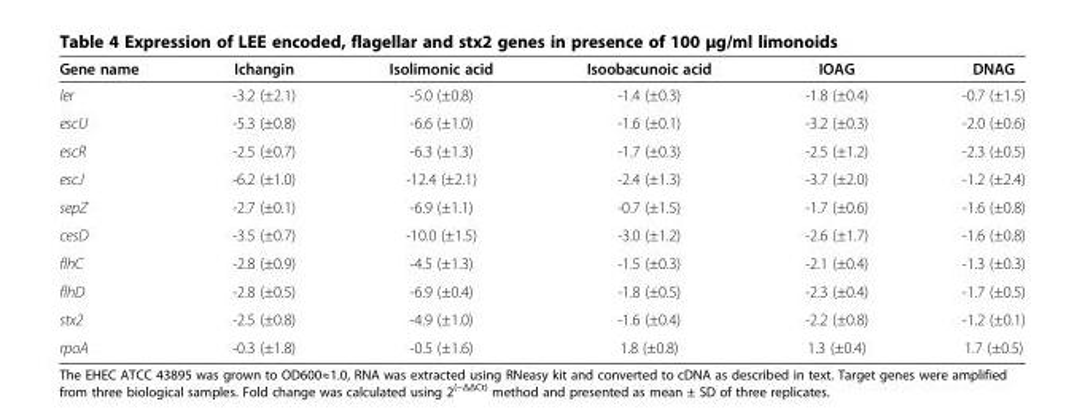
<table><thead><tr><td>Gene name</td><td>Ichangin</td><td>Isolimonic acid</td><td>Isoobacunoic acid</td><td>IOAG</td><td>DNAG</td></tr></thead><tbody><tr><td>ler</td><td>-3.2 (±2.1)</td><td>-5.0 (±0.8)</td><td>-1.4 (±0.3)</td><td>-1.8 (±0.4)</td><td>-0.7 (±1.5)</td></tr><tr><td>escU</td><td>-5.3 (±0.8)</td><td>-6.6 (±1.0)</td><td>-1.6 (±0.1)</td><td>-3.2 (±0.3)</td><td>-2.0 (±0.6)</td></tr><tr><td>escR</td><td>-2.5 (±0.7)</td><td>-6.3 (±1.3)</td><td>-1.7 (±0.3)</td><td>-2.5 (±1.2)</td><td>-2.3 (±0.5)</td></tr><tr><td>escJ</td><td>-6.2 (±1.0)</td><td>-12.4 (±2.1)</td><td>-2.4 (±1.3)</td><td>-3.7 (±2.0)</td><td>-1.2 (±2.4)</td></tr><tr><td>sepZ</td><td>-2.7 (±0.1)</td><td>-6.9 (±1.1)</td><td>-0.7 (±1.5)</td><td>-1.7 (±0.6)</td><td>-1.6 (±0.8)</td></tr><tr><td>cesD</td><td>-3.5 (±0.7)</td><td>-10.0 (±1.5)</td><td>-3.0 (±1.2)</td><td>-2.6 (±1.7)</td><td>-1.6 (±0.8)</td></tr><tr><td>flhC</td><td>-2.8 (±0.9)</td><td>-4.5 (±1.3)</td><td>-1.5 (±0.3)</td><td>-2.1 (±0.4)</td><td>-1.3 (±0.3)</td></tr><tr><td>flhD</td><td>-2.8 (±0.5)</td><td>-6.9 (±0.4)</td><td>-1.8 (±0.5)</td><td>-2.3 (±0.4)</td><td>-1.7 (±0.5)</td></tr><tr><td>stx2</td><td>-2.5 (±0.8)</td><td>-4.9 (±1.0)</td><td>-1.6 (±0.4)</td><td>-2.2 (±0.8)</td><td>-1.2 (±0.1)</td></tr><tr><td>rpoA</td><td>-0.3 (±1.8)</td><td>-0.5 (±1.6)</td><td>1.8 (±0.8)</td><td>1.3 (±0.4)</td><td>1.7 (±0.5)</td></tr></tbody></table>